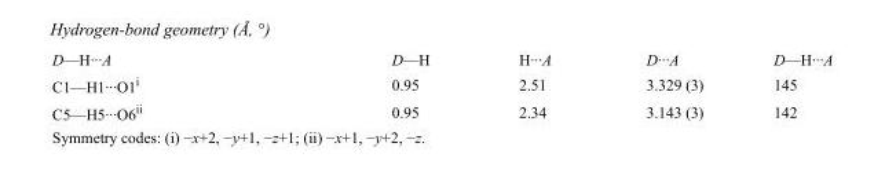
<table><tbody><tr><td>D—H···A</td><td>D—H</td><td>H···A</td><td>D···A</td><td>D—H···A</td></tr><tr><td>C1—H1···O1<sup>i</sup></td><td>0.95</td><td>2.51</td><td>3.329 (3)</td><td>145</td></tr><tr><td>C5—H5···O6<sup>ii</sup></td><td>0.95</td><td>2.34</td><td>3.143 (3)</td><td>142</td></tr></tbody></table>